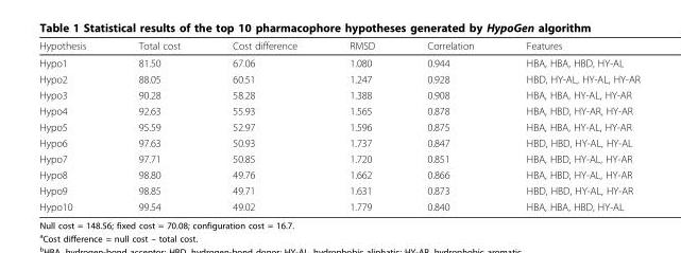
<table><thead><tr><td>Hypothesis</td><td>Total cost</td><td>Cost difference</td><td>RMSD</td><td>Correlation</td><td>Features</td></tr></thead><tbody><tr><td>Hypo1</td><td>81.50</td><td>67.06</td><td>1.080</td><td>0.944</td><td>HBA, HBA, HBD, HY-AL</td></tr><tr><td>Hypo2</td><td>88.05</td><td>60.51</td><td>1.247</td><td>0.928</td><td>HBD, HY-AL, HY-AL, HY-AR</td></tr><tr><td>Hypo3</td><td>90.28</td><td>58.28</td><td>1.388</td><td>0.908</td><td>HBA, HBA, HY-AL, HY-AR</td></tr><tr><td>Hypo4</td><td>92.63</td><td>55.93</td><td>1.565</td><td>0.878</td><td>HBA, HBD, HY-AR, HY-AR</td></tr><tr><td>Hypo5</td><td>95.59</td><td>52.97</td><td>1.596</td><td>0.875</td><td>HBA, HBA, HY-AL, HY-AR</td></tr><tr><td>Hypo6</td><td>97.63</td><td>50.93</td><td>1.737</td><td>0.847</td><td>HBD, HBD, HY-AL, HY-AL</td></tr><tr><td>Hypo7</td><td>97.71</td><td>50.85</td><td>1.720</td><td>0.851</td><td>HBA, HBD, HY-AL, HY-AR</td></tr><tr><td>Hypo8</td><td>98.80</td><td>49.76</td><td>1.662</td><td>0.866</td><td>HBA, HBD, HY-AL, HY-AR</td></tr><tr><td>Hypo9</td><td>98.85</td><td>49.71</td><td>1.631</td><td>0.873</td><td>HBD, HBD, HY-AL, HY-AR</td></tr><tr><td>Hypo10</td><td>99.54</td><td>49.02</td><td>1.779</td><td>0.840</td><td>HBA, HBA, HBD, HY-AL</td></tr></tbody></table>